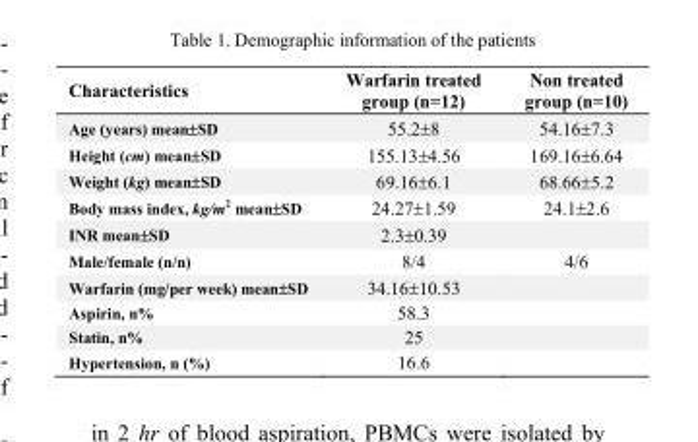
<table><thead><tr><td>Characteristics</td><td>Warfarin treated group (n=12)</td><td>Non treated group (n=10)</td></tr></thead><tbody><tr><td>Age (years) mean±SD</td><td>55.2±8</td><td>54.16±7.3</td></tr><tr><td>Height (cm) mean±SD</td><td>155.13±4.56</td><td>169.16±6.64</td></tr><tr><td>Weight (kg) mean±SD</td><td>69.16±6.1</td><td>68.66±5.2</td></tr><tr><td>Body mass index, kg/m<sup>2</sup> mean±SD</td><td>24.27±1.59</td><td>24.1±2.6</td></tr><tr><td>INR mean±SD</td><td>2.3±0.39</td><td></td></tr><tr><td>Male/female (n/n)</td><td>8/4</td><td>4/6</td></tr><tr><td>Warfarin (mg/per week) mean±SD</td><td>34.16±10.53</td><td></td></tr><tr><td>Aspirin, n%</td><td>58.3</td><td></td></tr><tr><td>Statin, n%</td><td>25</td><td></td></tr><tr><td>Hypertension, n (%)</td><td>16.6</td><td></td></tr></tbody></table>